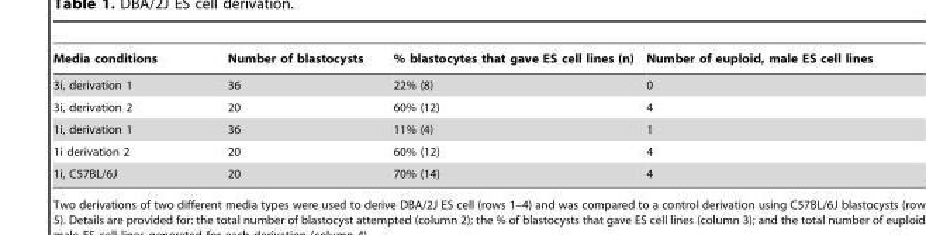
<table><thead><tr><td>Media conditions</td><td>Number of blastocysts</td><td>% blastocytes that gave ES cell lines (n)</td><td>Number of euploid, male ES cell lines</td></tr></thead><tbody><tr><td>3i, derivation 1</td><td>36</td><td>22% (8)</td><td>0</td></tr><tr><td>3i, derivation 2</td><td>20</td><td>60% (12)</td><td>4</td></tr><tr><td>1i, derivation 1</td><td>36</td><td>11% (4)</td><td>1</td></tr><tr><td>1i derivation 2</td><td>20</td><td>60% (12)</td><td>4</td></tr><tr><td>1i, C57BL/6J</td><td>20</td><td>70% (14)</td><td>4</td></tr></tbody></table>